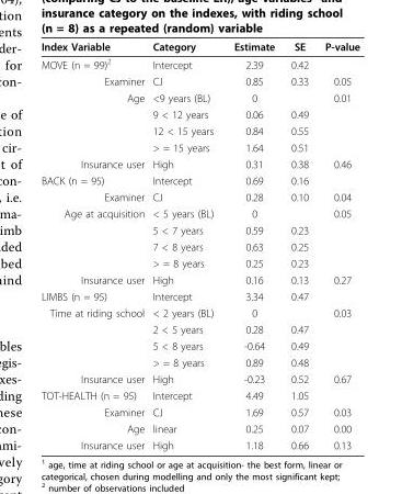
<table><thead><tr><td>Index Variable</td><td>Category</td><td>Estimate</td><td>SE</td><td>P-value</td></tr></thead><tbody><tr><td>MOVE (n = 99)<sup>2</sup></td><td>Intercept</td><td>2.39</td><td>0.42</td><td></td></tr><tr><td>Examiner</td><td>CJ</td><td>0.85</td><td>0.33</td><td>0.05</td></tr><tr><td rowspan="4">Age</td><td>&lt;9 years (BL)</td><td>0</td><td></td><td>0.01</td></tr><tr><td>9 &lt; 12 years</td><td>0.06</td><td>0.49</td><td></td></tr><tr><td>12 &lt; 15 years</td><td>0.84</td><td>0.55</td><td></td></tr><tr><td>&gt; = 15 years</td><td>1.64</td><td>0.51</td><td></td></tr><tr><td>Insurance user</td><td>High</td><td>0.31</td><td>0.38</td><td>0.46</td></tr><tr><td>BACK (n = 95)</td><td>Intercept</td><td>0.69</td><td>0.16</td><td></td></tr><tr><td>Examiner</td><td>CJ</td><td>0.28</td><td>0.10</td><td>0.04</td></tr><tr><td rowspan="4">Age at acquisition</td><td>&lt; 5 years (BL)</td><td>0</td><td></td><td>0.05</td></tr><tr><td>5 &lt; 7 years</td><td>0.59</td><td>0.23</td><td></td></tr><tr><td>7 &lt; 8 years</td><td>0.63</td><td>0.25</td><td></td></tr><tr><td>&gt; = 8 years</td><td>0.25</td><td>0.23</td><td></td></tr><tr><td>Insurance user</td><td>High</td><td>0.16</td><td>0.13</td><td>0.27</td></tr><tr><td>LIMBS (n = 95)</td><td>Intercept</td><td>3.34</td><td>0.47</td><td></td></tr><tr><td rowspan="4">Time at riding school</td><td>&lt; 2 years (BL)</td><td>0</td><td></td><td>0.03</td></tr><tr><td>2 &lt; 5 years</td><td>0.28</td><td>0.47</td><td></td></tr><tr><td>5 &lt; 8 years</td><td>-0.64</td><td>0.49</td><td></td></tr><tr><td>&gt; = 8 years</td><td>0.89</td><td>0.48</td><td></td></tr><tr><td>Insurance user</td><td>High</td><td>-0.23</td><td>0.52</td><td>0.67</td></tr><tr><td>TOT-HEALTH (n = 95)</td><td>Intercept</td><td>4.49</td><td>1.05</td><td></td></tr><tr><td>Examiner</td><td>CJ</td><td>1.69</td><td>0.57</td><td>0.03</td></tr><tr><td>Age</td><td>linear</td><td>0.25</td><td>0.07</td><td>0.00</td></tr><tr><td>Insurance user</td><td>High</td><td>1.18</td><td>0.66</td><td>0.13</td></tr></tbody></table>